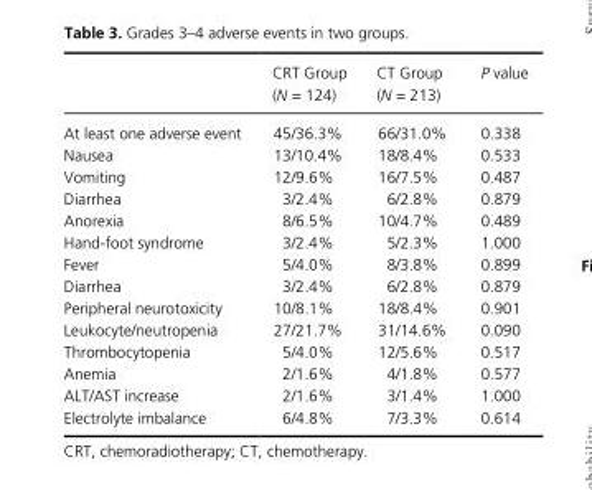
<table><thead><tr><td></td><td>CRT Group (N = 124)</td><td>CT Group (N = 213)</td><td>P value</td></tr></thead><tbody><tr><td>At least one adverse event</td><td>45/36.3%</td><td>66/31.0%</td><td>0.338</td></tr><tr><td>Nausea</td><td>13/10.4%</td><td>18/8.4%</td><td>0.533</td></tr><tr><td>Vomiting</td><td>12/9.6%</td><td>16/7.5%</td><td>0.487</td></tr><tr><td>Diarrhea</td><td>3/2.4%</td><td>6/2.8%</td><td>0.879</td></tr><tr><td>Anorexia</td><td>8/6.5%</td><td>10/4.7%</td><td>0.489</td></tr><tr><td>Hand- foot syndrome</td><td>3/2.4%</td><td>5/2.3%</td><td>1.000</td></tr><tr><td>Fever</td><td>5/4.0%</td><td>8/3.8%</td><td>0.899</td></tr><tr><td>Diarrhea</td><td>3/2.4%</td><td>6/2.8%</td><td>0.879</td></tr><tr><td>Peripheral neurotoxicity</td><td>10/8.1%</td><td>18/8.4%</td><td>0.901</td></tr><tr><td>Leukocyte/neutropenia</td><td>27/21.7%</td><td>31/14.6%</td><td>0.090</td></tr><tr><td>Thrombocytopenia</td><td>5/4.0%</td><td>12/5.6%</td><td>0.517</td></tr><tr><td>Anemia</td><td>2/1.6%</td><td>4/1.8%</td><td>0.577</td></tr><tr><td>ALT/AST increase</td><td>2/1.6%</td><td>3/1.4%</td><td>1.000</td></tr><tr><td>Electrolyte imbalance</td><td>6/4.8%</td><td>7/3.3%</td><td>0.614</td></tr></tbody></table>